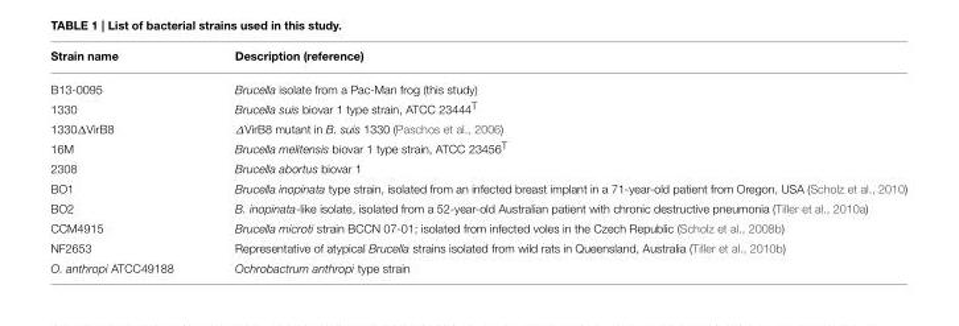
<table><thead><tr><td>Strain name</td><td>Description (reference)</td></tr></thead><tbody><tr><td>B13-0095</td><td>Brucella isolate from a Pac-Man frog (this study)</td></tr><tr><td>1330</td><td>Brucella suis biovar 1 type strain, ATCC 23444<sup>T</sup></td></tr><tr><td>1330ΔVirB8</td><td>∆VirB8 mutant in B. suis 1330 (Paschos et al., 2006)</td></tr><tr><td>16M</td><td>Brucella melitensis biovar 1 type strain, ATCC 23456<sup>T</sup></td></tr><tr><td>2308</td><td>Brucella abortus biovar 1</td></tr><tr><td>BO1</td><td>Brucella inopinata type strain, isolated from an infected breast implant in a 71-year-old patient from Oregon, USA (Scholz et al., 2010)</td></tr><tr><td>BO2</td><td>B. inopinata-like isolate, isolated from a 52-year-old Australian patient with chronic destructive pneumonia (Tiller et al., 2010a)</td></tr><tr><td>CCM4915</td><td>Brucella microti strain BCCN 07-01; isolated from infected voles in the Czech Republic (Scholz et al., 2008b)</td></tr><tr><td>NF2653</td><td>Representative of atypical Brucella strains isolated from wild rats in Queensland, Australia (Tiller et al., 2010b)</td></tr><tr><td>O. anthropi ATCC49188</td><td>Ochrobactrum anthropi type strain</td></tr></tbody></table>